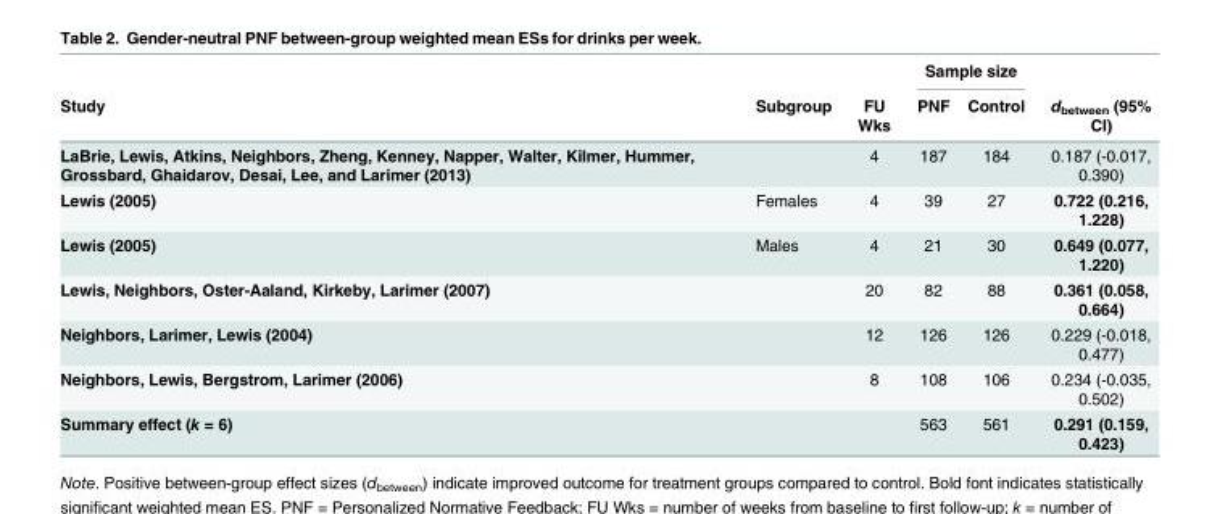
<table><thead><tr><td rowspan="2">Study</td><td rowspan="2">Subgroup</td><td rowspan="2">FU Wks</td><td colspan="2">Sample size</td><td rowspan="2">d<sub>between</sub> (95% CI)</td></tr><tr><td>PNF</td><td>Control</td></tr></thead><tbody><tr><td>LaBrie, Lewis, Atkins, Neighbors, Zheng, Kenney, Napper, Walter, Kilmer, Hummer, Grossbard, Ghaidarov, Desai, Lee, and Larimer (2013)</td><td></td><td>4</td><td>187</td><td>184</td><td>0.187 (-0.017, 0.390)</td></tr><tr><td>Lewis (2005)</td><td>Females</td><td>4</td><td>39</td><td>27</td><td>0.722 (0.216, 1.228)</td></tr><tr><td>Lewis (2005)</td><td>Males</td><td>4</td><td>21</td><td>30</td><td>0.649 (0.077, 1.220)</td></tr><tr><td>Lewis, Neighbors, Oster-Aaland, Kirkeby, Larimer (2007)</td><td></td><td>20</td><td>82</td><td>88</td><td>0.361 (0.058, 0.664)</td></tr><tr><td>Neighbors, Larimer, Lewis (2004)</td><td></td><td>12</td><td>126</td><td>126</td><td>0.229 (-0.018, 0.477)</td></tr><tr><td>Neighbors, Lewis, Bergstrom, Larimer (2006)</td><td></td><td>8</td><td>108</td><td>106</td><td>0.234 (-0.035, 0.502)</td></tr><tr><td>Summary effect (k = 6)</td><td></td><td></td><td>563</td><td>561</td><td>0.291 (0.159, 0.423)</td></tr></tbody></table>